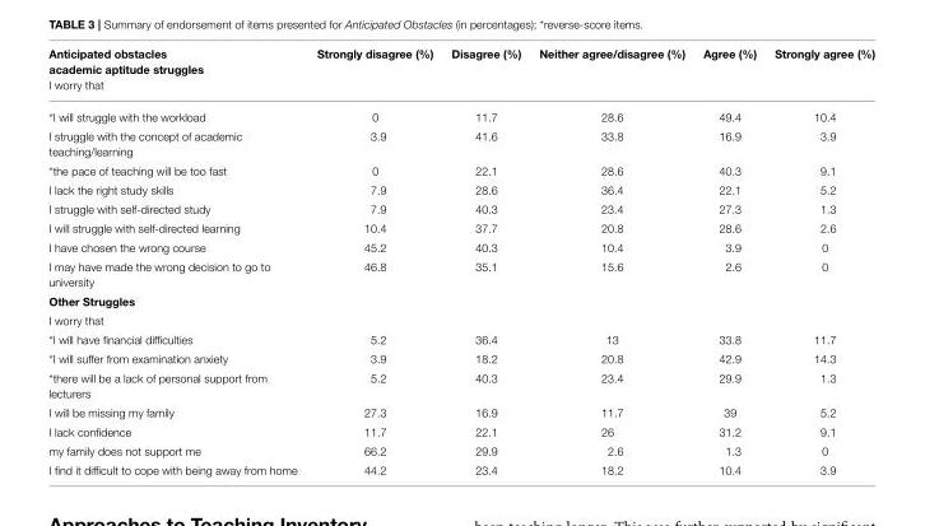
<table><tbody><tr><td>Anticipated obstacles academic aptitude struggles I worry that</td><td>Strongly disagree (%)</td><td>Disagree (%)</td><td>Neither agree/disagree (%)</td><td>Agree (%)</td><td>Strongly agree (%)</td></tr><tr><td>*I will struggle with the workload</td><td>0</td><td>11.7</td><td>28.6</td><td>49.4</td><td>10.4</td></tr><tr><td>I struggle with the concept of academic teaching/learning</td><td>3.9</td><td>41.6</td><td>33.8</td><td>16.9</td><td>3.9</td></tr><tr><td>*the pace of teaching will be too fast</td><td>0</td><td>22.1</td><td>28.6</td><td>40.3</td><td>9.1</td></tr><tr><td>I lack the right study skills</td><td>7.9</td><td>28.6</td><td>36.4</td><td>22.1</td><td>5.2</td></tr><tr><td>I struggle with self-directed study</td><td>7.9</td><td>40.3</td><td>23.4</td><td>27.3</td><td>1.3</td></tr><tr><td>I will struggle with self-directed learning</td><td>10.4</td><td>37.7</td><td>20.8</td><td>28.6</td><td>2.6</td></tr><tr><td>I have chosen the wrong course</td><td>45.2</td><td>40.3</td><td>10.4</td><td>3.9</td><td>0</td></tr><tr><td>I may have made the wrong decision to go to university</td><td>46.8</td><td>35.1</td><td>15.6</td><td>2.6</td><td>0</td></tr><tr><td colspan="6">Other Struggles</td></tr><tr><td colspan="6">I worry that</td></tr><tr><td>*I will have financial difficulties</td><td>5.2</td><td>36.4</td><td>13</td><td>33.8</td><td>11.7</td></tr><tr><td>*I will suffer from examination anxiety</td><td>3.9</td><td>18.2</td><td>20.8</td><td>42.9</td><td>14.3</td></tr><tr><td>*there will be a lack of personal support from lecturers</td><td>5.2</td><td>40.3</td><td>23.4</td><td>29.9</td><td>1.3</td></tr><tr><td>I will be missing my family</td><td>27.3</td><td>16.9</td><td>11.7</td><td>39</td><td>5.2</td></tr><tr><td>I lack confidence</td><td>11.7</td><td>22.1</td><td>26</td><td>31.2</td><td>9.1</td></tr><tr><td>my family does not support me</td><td>66.2</td><td>29.9</td><td>2.6</td><td>1.3</td><td>0</td></tr><tr><td>I find it difficult to cope with being away from home</td><td>44.2</td><td>23.4</td><td>18.2</td><td>10.4</td><td>3.9</td></tr></tbody></table>